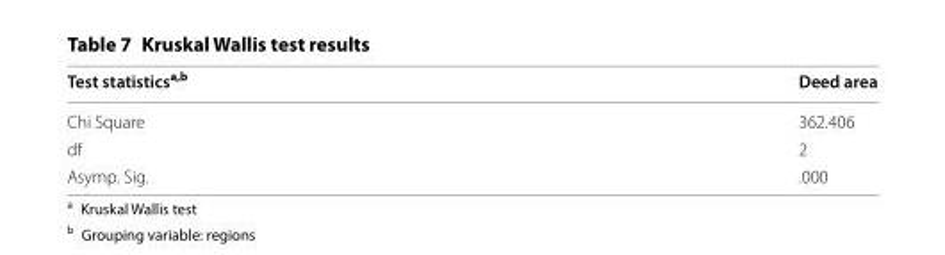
<table><thead><tr><td>Test statistics<sup>a,b</sup></td><td>Deed area</td></tr></thead><tbody><tr><td>Chi Square</td><td>362.406</td></tr><tr><td>df</td><td>2</td></tr><tr><td>Asymp. Sig.</td><td>.000</td></tr></tbody></table>